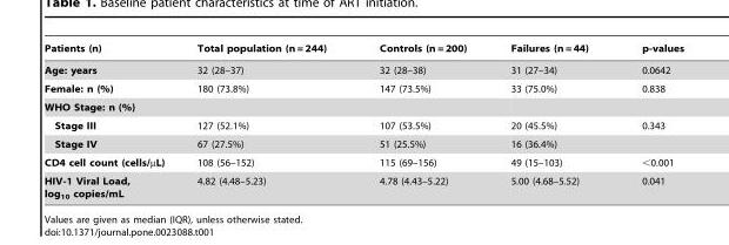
<table><thead><tr><td>Patients (n)</td><td>Total population (n = 244)</td><td>Controls (n = 200)</td><td>Failures (n = 44)</td><td>p-values</td></tr></thead><tbody><tr><td>Age: years</td><td>32 (28–37)</td><td>32 (28–38)</td><td>31 (27–34)</td><td>0.0642</td></tr><tr><td>Female: n (%)</td><td>180 (73.8%)</td><td>147 (73.5%)</td><td>33 (75.0%)</td><td>0.838</td></tr><tr><td colspan="5">WHO Stage: n (%)</td></tr><tr><td>Stage III</td><td>127 (52.1%)</td><td>107 (53.5%)</td><td>20 (45.5%)</td><td>0.343</td></tr><tr><td>Stage IV</td><td>67 (27.5%)</td><td>51 (25.5%)</td><td>16 (36.4%)</td><td></td></tr><tr><td>CD4 cell count (cells/µL)</td><td>108 (56–152)</td><td>115 (69–156)</td><td>49 (15–103)</td><td>&lt;0.001</td></tr><tr><td>HIV-1 Viral Load, log<sub>10</sub> copies/mL</td><td>4.82 (4.48–5.23)</td><td>4.78 (4.43–5.22)</td><td>5.00 (4.68–5.52)</td><td>0.041</td></tr></tbody></table>